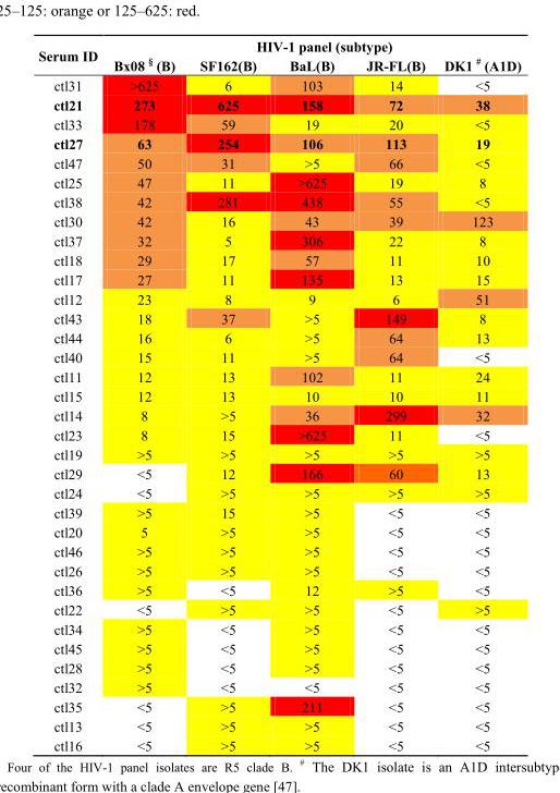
<table><thead><tr><td rowspan="2">Serum ID</td><td colspan="5">HIV-1 panel (subtype)</td></tr><tr><td>Bx08 <sup>§</sup> (B)</td><td>SF162(B)</td><td>BaL(B)</td><td>JR-FL(B)</td><td>DK1 <sup>#</sup> (A1D)</td></tr></thead><tbody><tr><td>ctl31</td><td>&gt;625</td><td>6</td><td>103</td><td>14</td><td>&lt;5</td></tr><tr><td>ctl21</td><td>273</td><td>625</td><td>158</td><td>72</td><td>38</td></tr><tr><td>ctl33</td><td>178</td><td>59</td><td>19</td><td>20</td><td>&lt;5</td></tr><tr><td>ctl27</td><td>63</td><td>254</td><td>106</td><td>113</td><td>19</td></tr><tr><td>ctl47</td><td>50</td><td>31</td><td>&gt;5</td><td>66</td><td>&lt;5</td></tr><tr><td>ctl25</td><td>47</td><td>11</td><td>&gt;625</td><td>19</td><td>8</td></tr><tr><td>ctl38</td><td>42</td><td>281</td><td>438</td><td>55</td><td>&lt;5</td></tr><tr><td>ctl30</td><td>42</td><td>16</td><td>43</td><td>39</td><td>123</td></tr><tr><td>ctl37</td><td>32</td><td>5</td><td>306</td><td>22</td><td>8</td></tr><tr><td>ctl18</td><td>29</td><td>17</td><td>57</td><td>11</td><td>10</td></tr><tr><td>ctl17</td><td>27</td><td>11</td><td>135</td><td>13</td><td>15</td></tr><tr><td>ctl12</td><td>23</td><td>8</td><td>9</td><td>6</td><td>51</td></tr><tr><td>ctl43</td><td>18</td><td>37</td><td>&gt;5</td><td>149</td><td>8</td></tr><tr><td>ctl44</td><td>16</td><td>6</td><td>&gt;5</td><td>64</td><td>13</td></tr><tr><td>ctl40</td><td>15</td><td>11</td><td>&gt;5</td><td>64</td><td>&lt;5</td></tr><tr><td>ctl11</td><td>12</td><td>13</td><td>102</td><td>11</td><td>24</td></tr><tr><td>ctl15</td><td>12</td><td>13</td><td>10</td><td>10</td><td>11</td></tr><tr><td>ctl14</td><td>8</td><td>&gt;5</td><td>36</td><td>299</td><td>32</td></tr><tr><td>ctl23</td><td>8</td><td>15</td><td>&gt;625</td><td>11</td><td>&lt;5</td></tr><tr><td>ctl19</td><td>&gt;5</td><td>&gt;5</td><td>&gt;5</td><td>&gt;5</td><td>&gt;5</td></tr><tr><td>ctl29</td><td>&lt;5</td><td>12</td><td>166</td><td>60</td><td>13</td></tr><tr><td>ctl24</td><td>&lt;5</td><td>&gt;5</td><td>&gt;5</td><td>&gt;5</td><td>&gt;5</td></tr><tr><td>ctl39</td><td>&gt;5</td><td>15</td><td>&gt;5</td><td>&lt;5</td><td>&lt;5</td></tr><tr><td>ctl20</td><td>5</td><td>&gt;5</td><td>&gt;5</td><td>&lt;5</td><td>&lt;5</td></tr><tr><td>ctl46</td><td>&gt;5</td><td>&gt;5</td><td>&gt;5</td><td>&lt;5</td><td>&lt;5</td></tr><tr><td>ctl26</td><td>&gt;5</td><td>&gt;5</td><td>&gt;5</td><td>&lt;5</td><td>&lt;5</td></tr><tr><td>ctl36</td><td>&gt;5</td><td>&lt;5</td><td>12</td><td>&gt;5</td><td>&lt;5</td></tr><tr><td>ctl22</td><td>&lt;5</td><td>&gt;5</td><td>&gt;5</td><td>&lt;5</td><td>&gt;5</td></tr><tr><td>ctl34</td><td>&gt;5</td><td>&lt;5</td><td>&gt;5</td><td>&lt;5</td><td>&lt;5</td></tr><tr><td>ctl45</td><td>&gt;5</td><td>&lt;5</td><td>&gt;5</td><td>&lt;5</td><td>&lt;5</td></tr><tr><td>ctl28</td><td>&gt;5</td><td>&lt;5</td><td>&gt;5</td><td>&lt;5</td><td>&lt;5</td></tr><tr><td>ctl32</td><td>&gt;5</td><td>&lt;5</td><td>&lt;5</td><td>&lt;5</td><td>&lt;5</td></tr><tr><td>ctl35</td><td>&lt;5</td><td>&gt;5</td><td>211</td><td>&lt;5</td><td>&lt;5</td></tr><tr><td>ctl13</td><td>&lt;5</td><td>&gt;5</td><td>&gt;5</td><td>&lt;5</td><td>&lt;5</td></tr><tr><td>ctl16</td><td>&lt;5</td><td>&gt;5</td><td>&gt;5</td><td>&lt;5</td><td>&lt;5</td></tr></tbody></table>